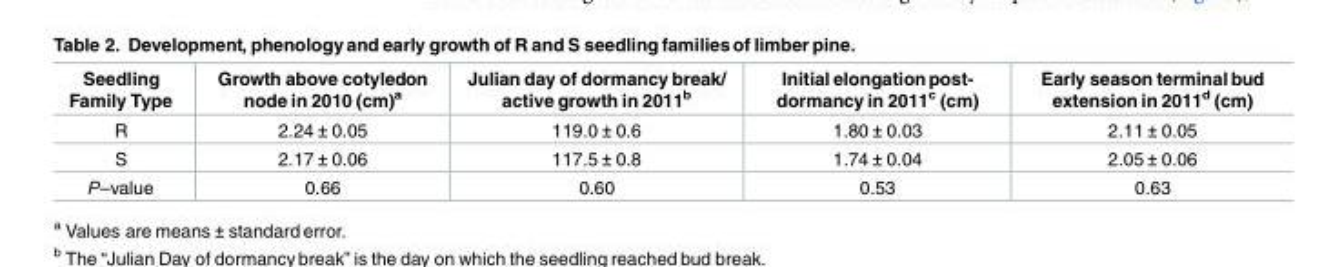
<table><thead><tr><td>Seedling Family Type</td><td>Growth above cotyledon node in 2010 (cm)<sup>a</sup></td><td>Julian day of dormancy break/ active growth in 2011<sup>b</sup></td><td>Initial elongationpost- dormancy in 2011<sup>c</sup> (cm)</td><td>Early season terminal bud extension in 2011<sup>d</sup> (cm)</td></tr></thead><tbody><tr><td>R</td><td>2.24 ± 0.05</td><td>119.0 ± 0.6</td><td>1.80 ± 0.03</td><td>2.11 ± 0.05</td></tr><tr><td>S</td><td>2.17 ± 0.06</td><td>117.5 ± 0.8</td><td>1.74 ± 0.04</td><td>2.05 ± 0.06</td></tr><tr><td>P–value</td><td>0.66</td><td>0.60</td><td>0.53</td><td>0.63</td></tr></tbody></table>